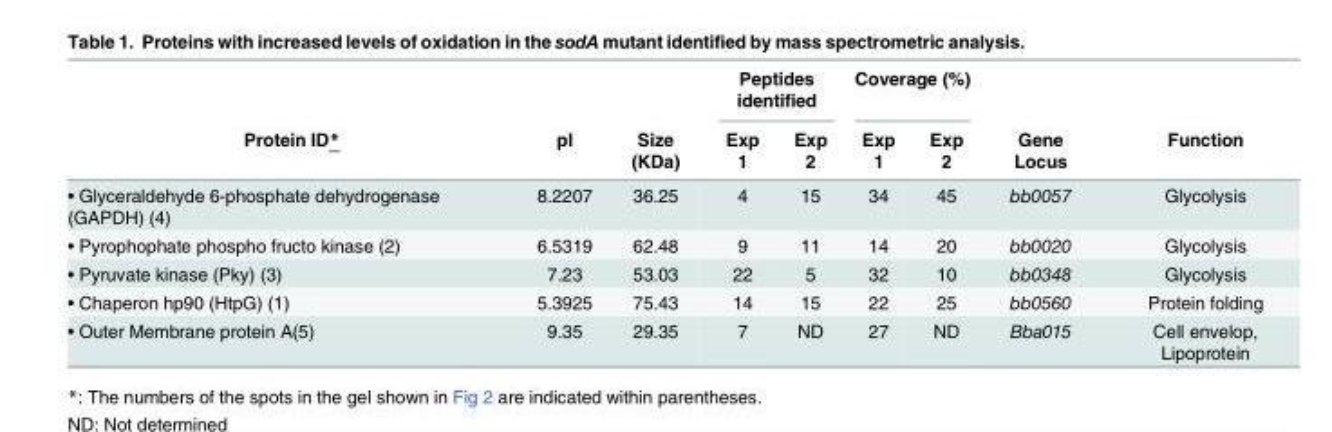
<table><thead><tr><td rowspan="2">Protein ID*</td><td rowspan="2">pI</td><td rowspan="2">Size (KDa)</td><td colspan="2">Peptides identified</td><td colspan="2">Coverage (%)</td><td rowspan="2">Gene Locus</td><td rowspan="2">Function</td></tr><tr><td>Exp 1</td><td>Exp 2</td><td>Exp 1</td><td>Exp 2</td></tr></thead><tbody><tr><td>• Glyceraldehyde 6-phosphate dehydrogenase (GAPDH) (4)</td><td>8.2207</td><td>36.25</td><td>4</td><td>15</td><td>34</td><td>45</td><td>bb0057</td><td>Glycolysis</td></tr><tr><td>• Pyrophophate phospho fructo kinase (2)</td><td>6.5319</td><td>62.48</td><td>9</td><td>11</td><td>14</td><td>20</td><td>bb0020</td><td>Glycolysis</td></tr><tr><td>• Pyruvate kinase (Pky) (3)</td><td>7.23</td><td>53.03</td><td>22</td><td>5</td><td>32</td><td>10</td><td>bb0348</td><td>Glycolysis</td></tr><tr><td>• Chaperon hp90 (HtpG) (1)</td><td>5.3925</td><td>75.43</td><td>14</td><td>15</td><td>22</td><td>25</td><td>bb0560</td><td>Protein folding</td></tr><tr><td>• Outer Membrane protein A(5)</td><td>9.35</td><td>29.35</td><td>7</td><td>ND</td><td>27</td><td>ND</td><td>Bba015</td><td>Cell envelop, Lipoprotein</td></tr></tbody></table>